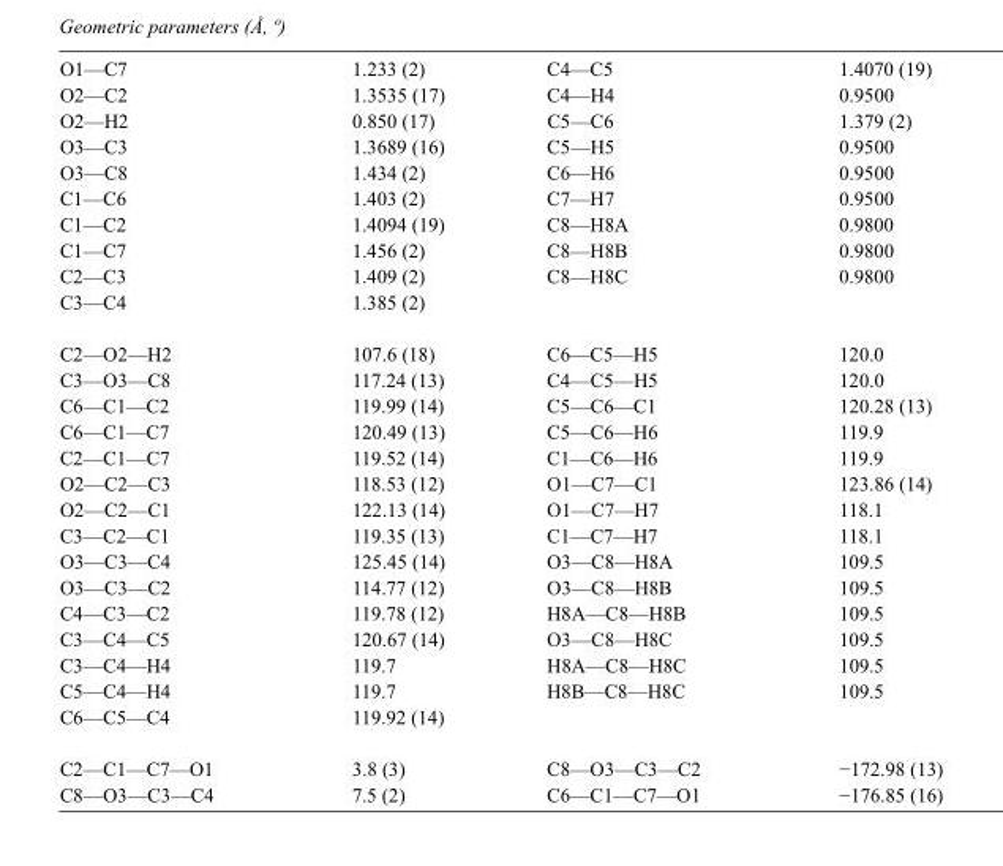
<table><tbody><tr><td>O1—C7</td><td>1.233 (2)</td><td>C4—C5</td><td>1.4070 (19)</td></tr><tr><td>O2—C2</td><td>1.3535 (17)</td><td>C4—H4</td><td>0.9500</td></tr><tr><td>O2—H2</td><td>0.850 (17)</td><td>C5—C6</td><td>1.379 (2)</td></tr><tr><td>O3—C3</td><td>1.3689 (16)</td><td>C5—H5</td><td>0.9500</td></tr><tr><td>O3—C8</td><td>1.434 (2)</td><td>C6—H6</td><td>0.9500</td></tr><tr><td>C1—C6</td><td>1.403 (2)</td><td>C7—H7</td><td>0.9500</td></tr><tr><td>C1—C2</td><td>1.4094 (19)</td><td>C8—H8A</td><td>0.9800</td></tr><tr><td>C1—C7</td><td>1.456 (2)</td><td>C8—H8B</td><td>0.9800</td></tr><tr><td>C2—C3</td><td>1.409 (2)</td><td>C8—H8C</td><td>0.9800</td></tr><tr><td>C3—C4</td><td>1.385 (2)</td><td></td><td></td></tr><tr><td>C2—O2—H2</td><td>107.6 (18)</td><td>C6—C5—H5</td><td>120.0</td></tr><tr><td>C3—O3—C8</td><td>117.24 (13)</td><td>C4—C5—H5</td><td>120.0</td></tr><tr><td>C6—C1—C2</td><td>119.99 (14)</td><td>C5—C6—C1</td><td>120.28 (13)</td></tr><tr><td>C6—C1—C7</td><td>120.49 (13)</td><td>C5—C6—H6</td><td>119.9</td></tr><tr><td>C2—C1—C7</td><td>119.52 (14)</td><td>C1—C6—H6</td><td>119.9</td></tr><tr><td>O2—C2—C3</td><td>118.53 (12)</td><td>O1—C7—C1</td><td>123.86 (14)</td></tr><tr><td>O2—C2—C1</td><td>122.13 (14)</td><td>O1—C7—H7</td><td>118.1</td></tr><tr><td>C3—C2—C1</td><td>119.35 (13)</td><td>C1—C7—H7</td><td>118.1</td></tr><tr><td>O3—C3—C4</td><td>125.45 (14)</td><td>O3—C8—H8A</td><td>109.5</td></tr><tr><td>O3—C3—C2</td><td>114.77 (12)</td><td>O3—C8—H8B</td><td>109.5</td></tr><tr><td>C4—C3—C2</td><td>119.78 (12)</td><td>H8A—C8—H8B</td><td>109.5</td></tr><tr><td>C3—C4—C5</td><td>120.67 (14)</td><td>O3—C8—H8C</td><td>109.5</td></tr><tr><td>C3—C4—H4</td><td>119.7</td><td>H8A—C8—H8C</td><td>109.5</td></tr><tr><td>C5—C4—H4</td><td>119.7</td><td>H8B—C8—H8C</td><td>109.5</td></tr><tr><td>C6—C5—C4</td><td>119.92 (14)</td><td></td><td></td></tr><tr><td>C2—C1—C7—O1</td><td>3.8 (3)</td><td>C8—O3—C3—C2</td><td>−172.98 (13)</td></tr><tr><td>C8—O3—C3—C4</td><td>7.5 (2)</td><td>C6—C1—C7—O1</td><td>−176.85 (16)</td></tr></tbody></table>